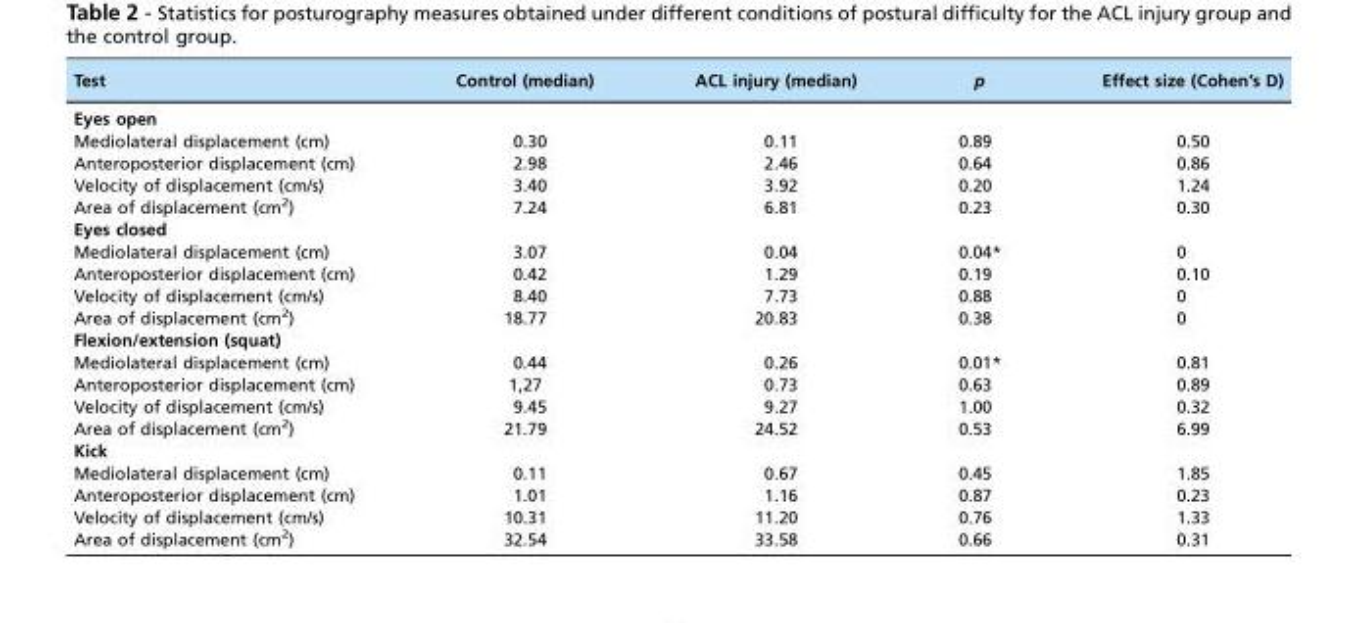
<table><thead><tr><td>Test</td><td>Control (median)</td><td>ACL injury (median)</td><td>p</td><td>Effect size (Cohen’s D)</td></tr></thead><tbody><tr><td colspan="5">Eyes open</td></tr><tr><td>Mediolateral displacement (cm)</td><td>0.30</td><td>0.11</td><td>0.89</td><td>0.50</td></tr><tr><td>Anteroposterior displacement (cm)</td><td>2.98</td><td>2.46</td><td>0.64</td><td>0.86</td></tr><tr><td>Velocity of displacement (cm/s)</td><td>3.40</td><td>3.92</td><td>0.20</td><td>1.24</td></tr><tr><td>Area of displacement (cm<sup>2</sup>)</td><td>7.24</td><td>6.81</td><td>0.23</td><td>0.30</td></tr><tr><td colspan="5">Eyes closed</td></tr><tr><td>Mediolateral displacement (cm)</td><td>3.07</td><td>0.04</td><td>0.04*</td><td>0</td></tr><tr><td>Anteroposterior displacement (cm)</td><td>0.42</td><td>1.29</td><td>0.19</td><td>0.10</td></tr><tr><td>Velocity of displacement (cm/s)</td><td>8.40</td><td>7.73</td><td>0.88</td><td>0</td></tr><tr><td>Area of displacement (cm<sup>2</sup>)</td><td>18.77</td><td>20.83</td><td>0.38</td><td>0</td></tr><tr><td colspan="5">Flexion/extension (squat)</td></tr><tr><td>Mediolateral displacement (cm)</td><td>0.44</td><td>0.26</td><td>0.01*</td><td>0.81</td></tr><tr><td>Anteroposterior displacement (cm)</td><td>1,27</td><td>0.73</td><td>0.63</td><td>0.89</td></tr><tr><td>Velocity of displacement (cm/s)</td><td>9.45</td><td>9.27</td><td>1.00</td><td>0.32</td></tr><tr><td>Area of displacement (cm<sup>2</sup>)</td><td>21.79</td><td>24.52</td><td>0.53</td><td>6.99</td></tr><tr><td colspan="5">Kick</td></tr><tr><td>Mediolateral displacement (cm)</td><td>0.11</td><td>0.67</td><td>0.45</td><td>1.85</td></tr><tr><td>Anteroposterior displacement (cm)</td><td>1.01</td><td>1.16</td><td>0.87</td><td>0.23</td></tr><tr><td>Velocity of displacement (cm/s)</td><td>10.31</td><td>11.20</td><td>0.76</td><td>1.33</td></tr><tr><td>Area of displacement (cm<sup>2</sup>)</td><td>32.54</td><td>33.58</td><td>0.66</td><td>0.31</td></tr></tbody></table>